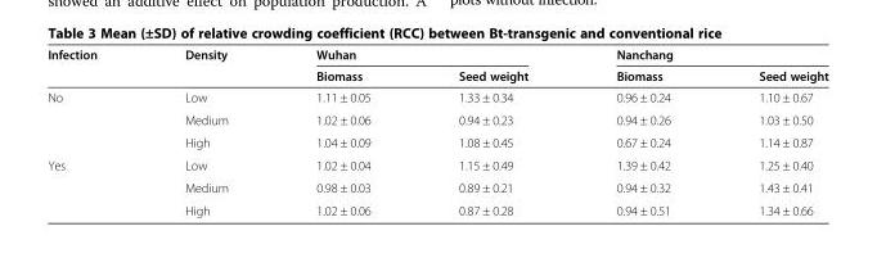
<table><thead><tr><td rowspan="2">Infection</td><td rowspan="2">Density</td><td colspan="2">Wuhan</td><td colspan="2">Nanchang</td></tr><tr><td>Biomass</td><td>Seed weight</td><td>Biomass</td><td>Seed weight</td></tr></thead><tbody><tr><td rowspan="3">No</td><td>Low</td><td>1.11 ± 0.05</td><td>1.33 ± 0.34</td><td>0.96 ± 0.24</td><td>1.10 ± 0.67</td></tr><tr><td>Medium</td><td>1.02 ± 0.06</td><td>0.94 ± 0.23</td><td>0.94 ± 0.26</td><td>1.03 ± 0.50</td></tr><tr><td>High</td><td>1.04 ± 0.09</td><td>1.08 ± 0.45</td><td>0.67 ± 0.24</td><td>1.14 ± 0.87</td></tr><tr><td rowspan="3">Yes</td><td>Low</td><td>1.02 ± 0.04</td><td>1.15 ± 0.49</td><td>1.39 ± 0.42</td><td>1.25 ± 0.40</td></tr><tr><td>Medium</td><td>0.98 ± 0.03</td><td>0.89 ± 0.21</td><td>0.94 ± 0.32</td><td>1.43 ± 0.41</td></tr><tr><td>High</td><td>1.02 ± 0.06</td><td>0.87 ± 0.28</td><td>0.94 ± 0.51</td><td>1.34 ± 0.66</td></tr></tbody></table>